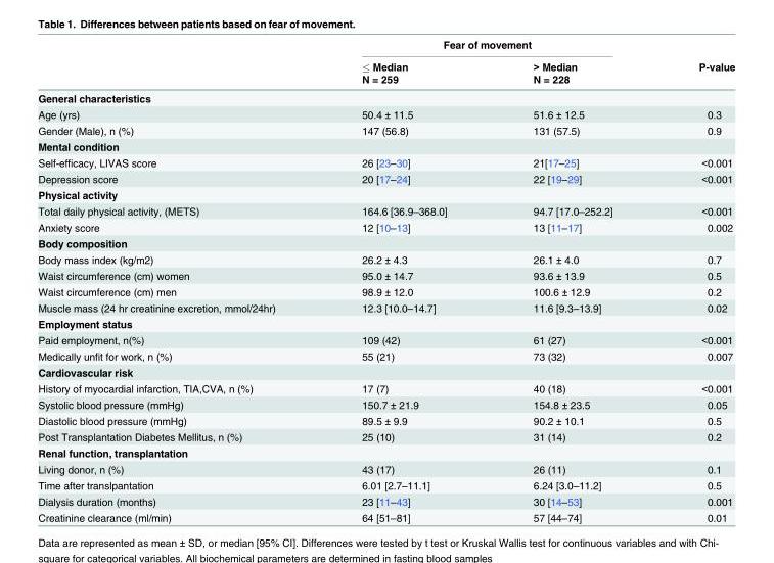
<table><thead><tr><td rowspan="3"></td><td colspan="2">Fear of movement</td><td rowspan="3">P-value</td></tr><tr><td rowspan="2">≤ Median N = 259</td><td rowspan="2">&gt; Median N = 228</td></tr><tr></tr></thead><tbody><tr><td colspan="4">General characteristics</td></tr><tr><td>Age (yrs)</td><td>50.4 ± 11.5</td><td>51.6 ± 12.5</td><td>0.3</td></tr><tr><td>Gender (Male), n (%)</td><td>147 (56.8)</td><td>131 (57.5)</td><td>0.9</td></tr><tr><td colspan="4">Mental condition</td></tr><tr><td>Self-efficacy, LIVAS score</td><td>26 [23–30]</td><td>21[17–25]</td><td>&lt;0.001</td></tr><tr><td>Depression score</td><td>20 [17–24]</td><td>22 [19–29]</td><td>&lt;0.001</td></tr><tr><td colspan="4">Physical activity</td></tr><tr><td>Total daily physical activity, (METS)</td><td>164.6 [36.9–368.0]</td><td>94.7 [17.0–252.2]</td><td>&lt;0.001</td></tr><tr><td>Anxiety score</td><td>12 [10–13]</td><td>13 [11–17]</td><td>0.002</td></tr><tr><td colspan="4">Body composition</td></tr><tr><td>Body mass index (kg/m2)</td><td>26.2 ± 4.3</td><td>26.1 ± 4.0</td><td>0.7</td></tr><tr><td>Waist circumference (cm) women</td><td>95.0 ± 14.7</td><td>93.6 ± 13.9</td><td>0.5</td></tr><tr><td>Waist circumference (cm) men</td><td>98.9 ± 12.0</td><td>100.6 ± 12.9</td><td>0.2</td></tr><tr><td>Muscle mass (24 hr creatinine excretion, mmol/24hr)</td><td>12.3 [10.0–14.7]</td><td>11.6 [9.3–13.9]</td><td>0.02</td></tr><tr><td colspan="4">Employment status</td></tr><tr><td>Paid employment, n(%)</td><td>109 (42)</td><td>61 (27)</td><td>&lt;0.001</td></tr><tr><td>Medically unfit for work, n (%)</td><td>55 (21)</td><td>73 (32)</td><td>0.007</td></tr><tr><td colspan="4">Cardiovascular risk</td></tr><tr><td>History of myocardial infarction, TIA,CVA, n (%)</td><td>17 (7)</td><td>40 (18)</td><td>&lt;0.001</td></tr><tr><td>Systolic blood pressure (mmHg)</td><td>150.7 ± 21.9</td><td>154.8 ± 23.5</td><td>0.05</td></tr><tr><td>Diastolic blood pressure (mmHg)</td><td>89.5 ± 9.9</td><td>90.2 ± 10.1</td><td>0.5</td></tr><tr><td>Post Transplantation Diabetes Mellitus, n (%)</td><td>25 (10)</td><td>31 (14)</td><td>0.2</td></tr><tr><td colspan="4">Renal function, transplantation</td></tr><tr><td>Living donor, n (%)</td><td>43 (17)</td><td>26 (11)</td><td>0.1</td></tr><tr><td>Time after translpantation</td><td>6.01 [2.7–11.1]</td><td>6.24 [3.0–11.2]</td><td>0.5</td></tr><tr><td>Dialysis duration (months)</td><td>23 [11–43]</td><td>30 [14–53]</td><td>0.001</td></tr><tr><td>Creatinine clearance (ml/min)</td><td>64 [51–81]</td><td>57 [44–74]</td><td>0.01</td></tr></tbody></table>